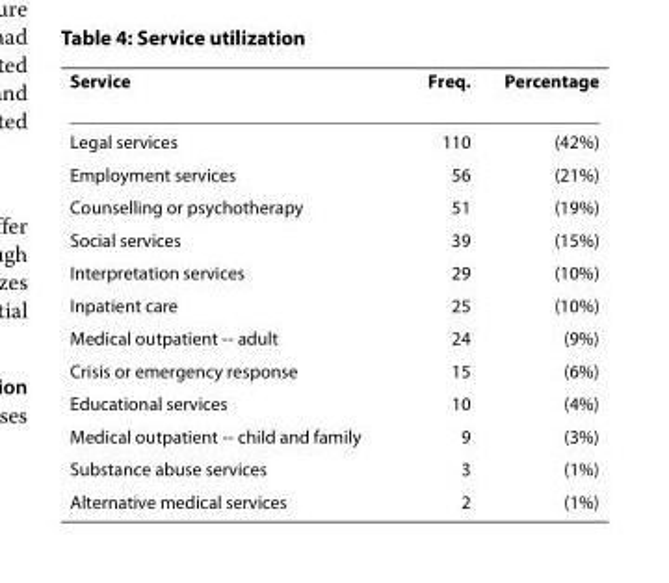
<table><thead><tr><td>Service</td><td>Freq.</td><td>Percentage</td></tr></thead><tbody><tr><td>Legal services</td><td>110</td><td>(42%)</td></tr><tr><td>Employment services</td><td>56</td><td>(21%)</td></tr><tr><td>Counselling or psychotherapy</td><td>51</td><td>(19%)</td></tr><tr><td>Social services</td><td>39</td><td>(15%)</td></tr><tr><td>Interpretation services</td><td>29</td><td>(10%)</td></tr><tr><td>Inpatient care</td><td>25</td><td>(10%)</td></tr><tr><td>Medical outpatient -- adult</td><td>24</td><td>(9%)</td></tr><tr><td>Crisis or emergency response</td><td>15</td><td>(6%)</td></tr><tr><td>Educational services</td><td>10</td><td>(4%)</td></tr><tr><td>Medical outpatient -- child and family</td><td>9</td><td>(3%)</td></tr><tr><td>Substance abuse services</td><td>3</td><td>(1%)</td></tr><tr><td>Alternative medical services</td><td>2</td><td>(1%)</td></tr></tbody></table>